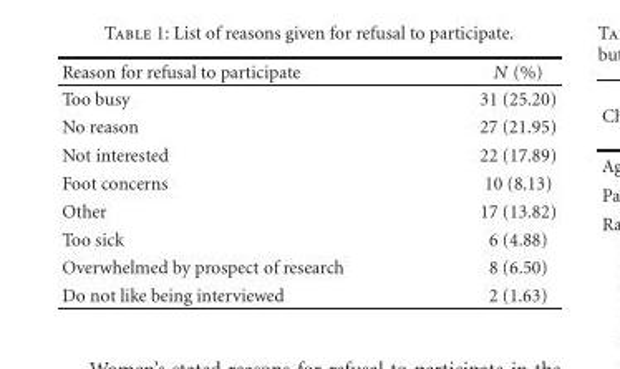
<table><thead><tr><td>Reason for refusal to participate</td><td>N (%)</td></tr></thead><tbody><tr><td>Too busy</td><td>31 (25.20)</td></tr><tr><td>No reason</td><td>27 (21.95)</td></tr><tr><td>Not interested</td><td>22 (17.89)</td></tr><tr><td>Foot concerns</td><td>10 (8.13)</td></tr><tr><td>Other</td><td>17 (13.82)</td></tr><tr><td>Too sick</td><td>6 (4.88)</td></tr><tr><td>Overwhelmed by prospect of research</td><td>8 (6.50)</td></tr><tr><td>Do not like being interviewed</td><td>2 (1.63)</td></tr></tbody></table>